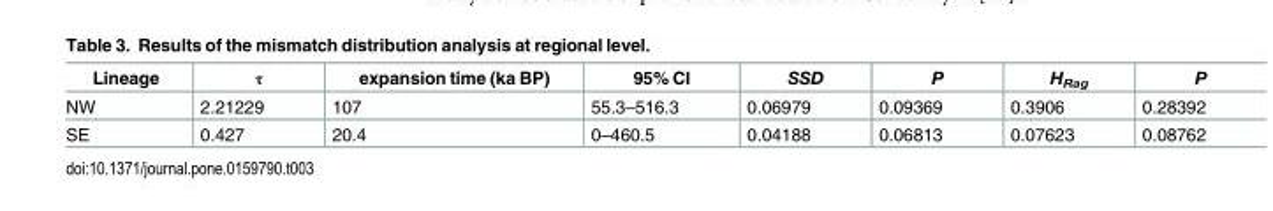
<table><thead><tr><td>Lineage</td><td>τ</td><td>expansion time (ka BP)</td><td>95% CI</td><td>SSD</td><td>P</td><td>H<sub>Rag</sub></td><td>P</td></tr></thead><tbody><tr><td>NW</td><td>2.21229</td><td>107</td><td>55.3–516.3</td><td>0.06979</td><td>0.09369</td><td>0.3906</td><td>0.28392</td></tr><tr><td>SE</td><td>0.427</td><td>20.4</td><td>0–460.5</td><td>0.04188</td><td>0.06813</td><td>0.07623</td><td>0.08762</td></tr></tbody></table>